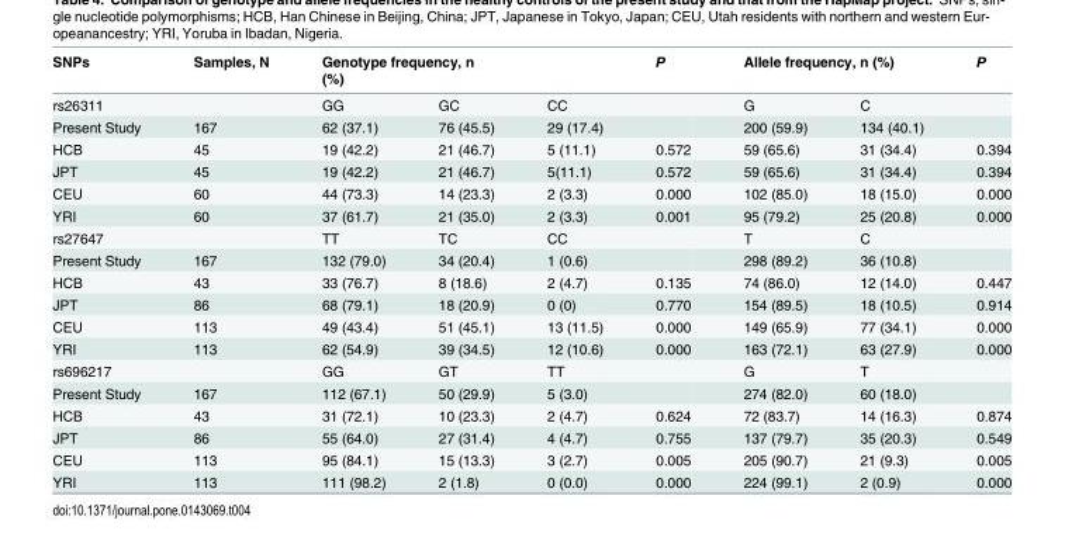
<table><thead><tr><td rowspan="2">SNPs rs26311</td><td rowspan="2">Samples, N</td><td colspan="2">Genotype frequency, n (%)</td><td rowspan="2">CC</td><td rowspan="2">P</td><td colspan="2">Allele frequency, n (%)</td><td rowspan="2">P</td></tr><tr><td>GG</td><td>GC</td><td>G</td><td>C</td></tr></thead><tbody><tr><td>Present Study</td><td>167</td><td>62 (37.1)</td><td>76 (45.5)</td><td>29 (17.4)</td><td></td><td>200 (59.9)</td><td>134 (40.1)</td><td></td></tr><tr><td>HCB</td><td>45</td><td>19 (42.2)</td><td>21 (46.7)</td><td>5 (11.1)</td><td>0.572</td><td>59 (65.6)</td><td>31 (34.4)</td><td>0.394</td></tr><tr><td>JPT</td><td>45</td><td>19 (42.2)</td><td>21 (46.7)</td><td>5(11.1)</td><td>0.572</td><td>59 (65.6)</td><td>31 (34.4)</td><td>0.394</td></tr><tr><td>CEU</td><td>60</td><td>44 (73.3)</td><td>14 (23.3)</td><td>2 (3.3)</td><td>0.000</td><td>102 (85.0)</td><td>18 (15.0)</td><td>0.000</td></tr><tr><td>YRI</td><td>60</td><td>37 (61.7)</td><td>21 (35.0)</td><td>2 (3.3)</td><td>0.001</td><td>95 (79.2)</td><td>25 (20.8)</td><td>0.000</td></tr><tr><td>rs27647</td><td></td><td>TT</td><td>TC</td><td>CC</td><td></td><td>T</td><td>C</td><td></td></tr><tr><td>Present Study</td><td>167</td><td>132 (79.0)</td><td>34 (20.4)</td><td>1 (0.6)</td><td></td><td>298 (89.2)</td><td>36 (10.8)</td><td></td></tr><tr><td>HCB</td><td>43</td><td>33 (76.7)</td><td>8 (18.6)</td><td>2 (4.7)</td><td>0.135</td><td>74 (86.0)</td><td>12 (14.0)</td><td>0.447</td></tr><tr><td>JPT</td><td>86</td><td>68 (79.1)</td><td>18 (20.9)</td><td>0 (0)</td><td>0.770</td><td>154 (89.5)</td><td>18 (10.5)</td><td>0.914</td></tr><tr><td>CEU</td><td>113</td><td>49 (43.4)</td><td>51 (45.1)</td><td>13 (11.5)</td><td>0.000</td><td>149 (65.9)</td><td>77 (34.1)</td><td>0.000</td></tr><tr><td>YRI</td><td>113</td><td>62 (54.9)</td><td>39 (34.5)</td><td>12 (10.6)</td><td>0.000</td><td>163 (72.1)</td><td>63 (27.9)</td><td>0.000</td></tr><tr><td>rs696217</td><td></td><td>GG</td><td>GT</td><td>TT</td><td></td><td>G</td><td>T</td><td></td></tr><tr><td>Present Study</td><td>167</td><td>112 (67.1)</td><td>50 (29.9)</td><td>5 (3.0)</td><td></td><td>274 (82.0)</td><td>60 (18.0)</td><td></td></tr><tr><td>HCB</td><td>43</td><td>31 (72.1)</td><td>10 (23.3)</td><td>2 (4.7)</td><td>0.624</td><td>72 (83.7)</td><td>14 (16.3)</td><td>0.874</td></tr><tr><td>JPT</td><td>86</td><td>55 (64.0)</td><td>27 (31.4)</td><td>4 (4.7)</td><td>0.755</td><td>137 (79.7)</td><td>35 (20.3)</td><td>0.549</td></tr><tr><td>CEU</td><td>113</td><td>95 (84.1)</td><td>15 (13.3)</td><td>3 (2.7)</td><td>0.005</td><td>205 (90.7)</td><td>21 (9.3)</td><td>0.005</td></tr><tr><td>YRI</td><td>113</td><td>111 (98.2)</td><td>2 (1.8)</td><td>0 (0.0)</td><td>0.000</td><td>224 (99.1)</td><td>2 (0.9)</td><td>0.000</td></tr></tbody></table>